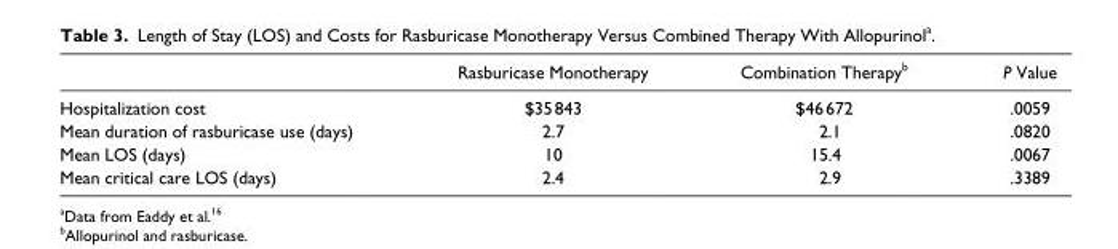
<table><thead><tr><td></td><td>Rasburicase Monotherapy</td><td>Combination Therapy<sup>b</sup></td><td>P Value</td></tr></thead><tbody><tr><td>Hospitalization cost</td><td>$35 843</td><td>$46 672</td><td>.0059</td></tr><tr><td>Mean duration of rasburicase use (days)</td><td>2.7</td><td>2.1</td><td>.0820</td></tr><tr><td>Mean LOS (days)</td><td>10</td><td>15.4</td><td>.0067</td></tr><tr><td>Mean critical care LOS (days)</td><td>2.4</td><td>2.9</td><td>.3389</td></tr></tbody></table>